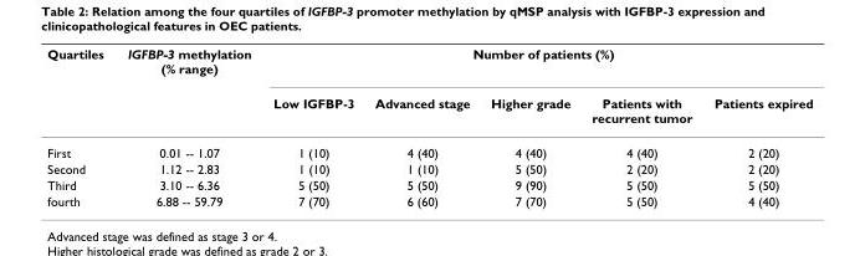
<table><thead><tr><td rowspan="2">Quartiles</td><td rowspan="2">IGFBP-3 methylation (% range)</td><td colspan="5">Number of patients (%)</td></tr><tr><td>Low IGFBP-3</td><td>Advanced stage</td><td>Higher grade</td><td>Patients with recurrent tumor</td><td>Patients expired</td></tr></thead><tbody><tr><td>First</td><td>0.01 -- 1.07</td><td>1 (10)</td><td>4 (40)</td><td>4 (40)</td><td>4 (40)</td><td>2 (20)</td></tr><tr><td>Second</td><td>1.12 -- 2.83</td><td>1 (10)</td><td>1 (10)</td><td>5 (50)</td><td>2 (20)</td><td>2 (20)</td></tr><tr><td>Third</td><td>3.10 -- 6.36</td><td>5 (50)</td><td>5 (50)</td><td>9 (90)</td><td>5 (50)</td><td>5 (50)</td></tr><tr><td>fourth</td><td>6.88 -- 59.79</td><td>7 (70)</td><td>6 (60)</td><td>7 (70)</td><td>5 (50)</td><td>4 (40)</td></tr></tbody></table>